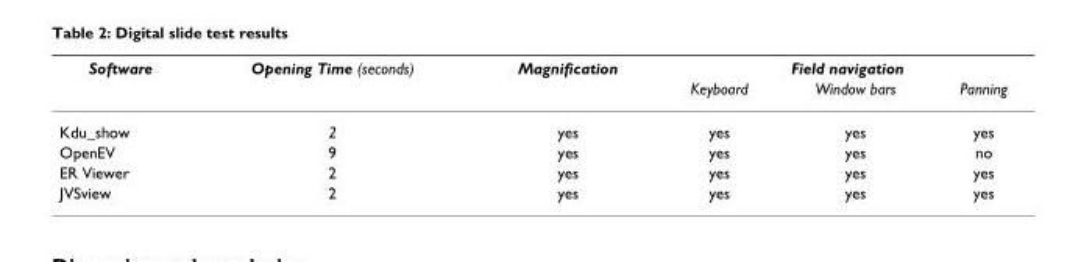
<table><thead><tr><td rowspan="2">Software</td><td rowspan="2">Opening Time (seconds)</td><td rowspan="2">Magnification</td><td colspan="3">Field navigation</td></tr><tr><td>Keyboard</td><td>Window bars</td><td>Panning</td></tr></thead><tbody><tr><td>Kdu_show</td><td>2</td><td>yes</td><td>yes</td><td>yes</td><td>yes</td></tr><tr><td>OpenEV</td><td>9</td><td>yes</td><td>yes</td><td>yes</td><td>no</td></tr><tr><td>ER Viewer</td><td>2</td><td>yes</td><td>yes</td><td>yes</td><td>yes</td></tr><tr><td>JVSview</td><td>2</td><td>yes</td><td>yes</td><td>yes</td><td>yes</td></tr></tbody></table>